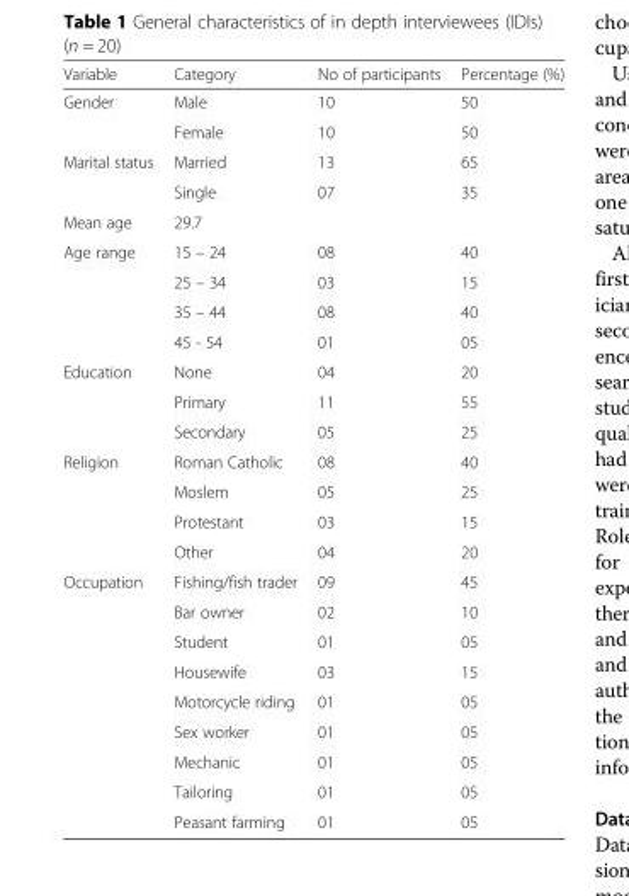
<table><thead><tr><td>Variable</td><td>Category</td><td>No of participants</td><td>Percentage (%)</td></tr></thead><tbody><tr><td rowspan="2">Gender</td><td>Male</td><td>10</td><td>50</td></tr><tr><td>Female</td><td>10</td><td>50</td></tr><tr><td rowspan="2">Marital status</td><td>Married</td><td>13</td><td>65</td></tr><tr><td>Single</td><td>07</td><td>35</td></tr><tr><td>Mean age</td><td colspan="3">29.7</td></tr><tr><td rowspan="4">Age range</td><td>15 – 24</td><td>08</td><td>40</td></tr><tr><td>25 – 34</td><td>03</td><td>15</td></tr><tr><td>35 – 44</td><td>08</td><td>40</td></tr><tr><td>45 - 54</td><td>01</td><td>05</td></tr><tr><td rowspan="3">Education</td><td>None</td><td>04</td><td>20</td></tr><tr><td>Primary</td><td>11</td><td>55</td></tr><tr><td>Secondary</td><td>05</td><td>25</td></tr><tr><td rowspan="4">Religion</td><td>Roman Catholic</td><td>08</td><td>40</td></tr><tr><td>Moslem</td><td>05</td><td>25</td></tr><tr><td>Protestant</td><td>03</td><td>15</td></tr><tr><td>Other</td><td>04</td><td>20</td></tr><tr><td rowspan="9">Occupation</td><td>Fishing/fish trader</td><td>09</td><td>45</td></tr><tr><td>Bar owner</td><td>02</td><td>10</td></tr><tr><td>Student</td><td>01</td><td>05</td></tr><tr><td>Housewife</td><td>03</td><td>15</td></tr><tr><td>Motorcycle riding</td><td>01</td><td>05</td></tr><tr><td>Sex worker</td><td>01</td><td>05</td></tr><tr><td>Mechanic</td><td>01</td><td>05</td></tr><tr><td>Tailoring</td><td>01</td><td>05</td></tr><tr><td>Peasant farming</td><td>01</td><td>05</td></tr></tbody></table>